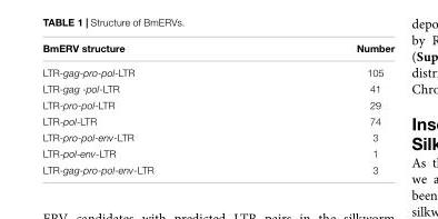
<table><thead><tr><td>BmERV structure</td><td>Number</td></tr></thead><tbody><tr><td>LTR-gag-pro-pol-LTR</td><td>105</td></tr><tr><td>LTR-gag -pol-LTR</td><td>41</td></tr><tr><td>LTR-pro-pol-LTR</td><td>29</td></tr><tr><td>LTR-pol-LTR</td><td>74</td></tr><tr><td>LTR-pro-pol-env-LTR</td><td>3</td></tr><tr><td>LTR-pol-env-LTR</td><td>1</td></tr><tr><td>LTR-gag-pro-pol-env-LTR</td><td>3</td></tr></tbody></table>